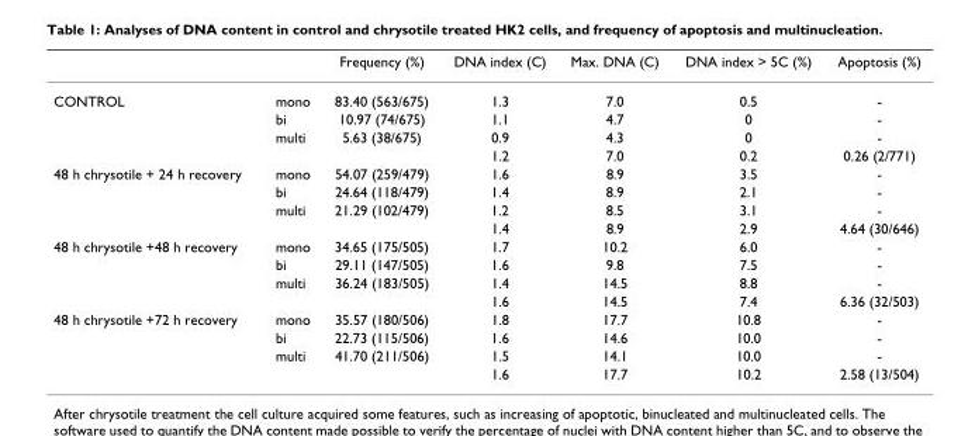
<table><thead><tr><td></td><td></td><td>Frequency (%)</td><td>DNA index (C)</td><td>Max. DNA (C)</td><td>DNA index &gt; 5C (%)</td><td>Apoptosis (%)</td></tr></thead><tbody><tr><td rowspan="4">CONTROL</td><td>mono</td><td>83.40 (563/675)</td><td>1.3</td><td>7.0</td><td>0.5</td><td>-</td></tr><tr><td>bi</td><td>10.97 (74/675)</td><td>1.1</td><td>4.7</td><td>0</td><td>-</td></tr><tr><td>multi</td><td>5.63 (38/675)</td><td>0.9</td><td>4.3</td><td>0</td><td>-</td></tr><tr><td></td><td></td><td>1.2</td><td>7.0</td><td>0.2</td><td>0.26 (2/771)</td></tr><tr><td rowspan="4">48 h chrysotile + 24 h recovery</td><td>mono</td><td>54.07 (259/479)</td><td>1.6</td><td>8.9</td><td>3.5</td><td>-</td></tr><tr><td>bi</td><td>24.64 (118/479)</td><td>1.4</td><td>8.9</td><td>2.1</td><td>-</td></tr><tr><td>multi</td><td>21.29 (102/479)</td><td>1.2</td><td>8.5</td><td>3.1</td><td>-</td></tr><tr><td></td><td></td><td>1.4</td><td>8.9</td><td>2.9</td><td>4.64 (30/646)</td></tr><tr><td rowspan="4">48 h chrysotile +48 h recovery</td><td>mono</td><td>34.65 (175/505)</td><td>1.7</td><td>10.2</td><td>6.0</td><td>-</td></tr><tr><td>bi</td><td>29.11 (147/505)</td><td>1.6</td><td>9.8</td><td>7.5</td><td>-</td></tr><tr><td>multi</td><td>36.24 (183/505)</td><td>1.4</td><td>14.5</td><td>8.8</td><td>-</td></tr><tr><td></td><td></td><td>1.6</td><td>14.5</td><td>7.4</td><td>6.36 (32/503)</td></tr><tr><td rowspan="4">48 h chrysotile +72 h recovery</td><td>mono</td><td>35.57 (180/506)</td><td>1.8</td><td>17.7</td><td>10.8</td><td>-</td></tr><tr><td>bi</td><td>22.73 (115/506)</td><td>1.6</td><td>14.6</td><td>10.0</td><td>-</td></tr><tr><td>multi</td><td>41.70 (211/506)</td><td>1.5</td><td>14.1</td><td>10.0</td><td>-</td></tr><tr><td></td><td></td><td>1.6</td><td>17.7</td><td>10.2</td><td>2.58 (13/504)</td></tr></tbody></table>